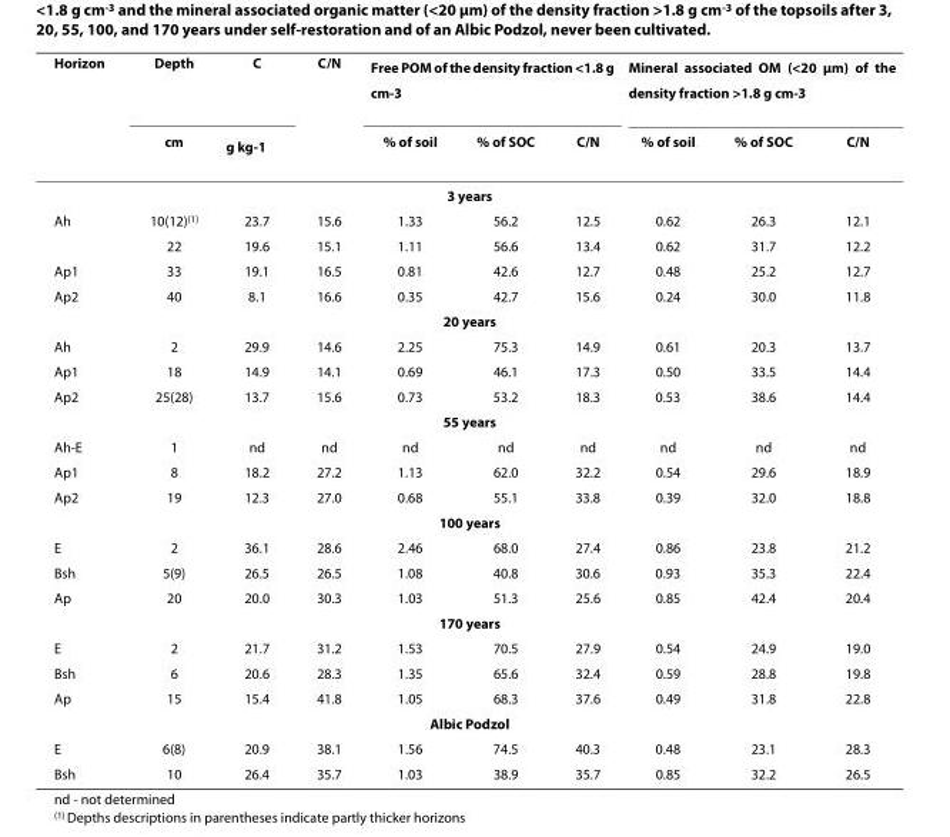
<table><thead><tr><td rowspan="2">Horizon</td><td rowspan="2">Depth cm</td><td rowspan="2">C g kg<sup>-1</sup></td><td rowspan="2">C/N</td><td colspan="3">Free POM of the density fraction &lt;1.8 g cm<sup>-3</sup></td><td colspan="3">Mineral associated OM (&lt;20 μm) of the density fraction &gt;1.8 g cm<sup>-3</sup></td></tr><tr><td>% of soil</td><td>% of SOC</td><td>C/N</td><td>% of soil</td><td>% of SOC</td><td>C/N</td></tr></thead><tbody><tr><td colspan="10">3 years</td></tr><tr><td rowspan="2">Ah</td><td>10(12)<sup>(1)</sup></td><td>23.7</td><td>15.6</td><td>1.33</td><td>56.2</td><td>12.5</td><td>0.62</td><td>26.3</td><td>12.1</td></tr><tr><td>22</td><td>19.6</td><td>15.1</td><td>1.11</td><td>56.6</td><td>13.4</td><td>0.62</td><td>31.7</td><td>12.2</td></tr><tr><td>Ap1</td><td>33</td><td>19.1</td><td>16.5</td><td>0.81</td><td>42.6</td><td>12.7</td><td>0.48</td><td>25.2</td><td>12.7</td></tr><tr><td>Ap2</td><td>40</td><td>8.1</td><td>16.6</td><td>0.35</td><td>42.7</td><td>15.6</td><td>0.24</td><td>30.0</td><td>11.8</td></tr><tr><td colspan="10">20 years</td></tr><tr><td>Ah</td><td>2</td><td>29.9</td><td>14.6</td><td>2.25</td><td>75.3</td><td>14.9</td><td>0.61</td><td>20.3</td><td>13.7</td></tr><tr><td>Ap1</td><td>18</td><td>14.9</td><td>14.1</td><td>0.69</td><td>46.1</td><td>17.3</td><td>0.50</td><td>33.5</td><td>14.4</td></tr><tr><td>Ap2</td><td>25(28)</td><td>13.7</td><td>15.6</td><td>0.73</td><td>53.2</td><td>18.3</td><td>0.53</td><td>38.6</td><td>14.4</td></tr><tr><td colspan="10">55 years</td></tr><tr><td>Ah-E</td><td>1</td><td>nd</td><td>nd</td><td>nd</td><td>nd</td><td>nd</td><td>nd</td><td>nd</td><td>nd</td></tr><tr><td>Ap1</td><td>8</td><td>18.2</td><td>27.2</td><td>1.13</td><td>62.0</td><td>32.2</td><td>0.54</td><td>29.6</td><td>18.9</td></tr><tr><td>Ap2</td><td>19</td><td>12.3</td><td>27.0</td><td>0.68</td><td>55.1</td><td>33.8</td><td>0.39</td><td>32.0</td><td>18.8</td></tr><tr><td colspan="10">100 years</td></tr><tr><td>E</td><td>2</td><td>36.1</td><td>28.6</td><td>2.46</td><td>68.0</td><td>27.4</td><td>0.86</td><td>23.8</td><td>21.2</td></tr><tr><td>Bsh</td><td>5(9)</td><td>26.5</td><td>26.5</td><td>1.08</td><td>40.8</td><td>30.6</td><td>0.93</td><td>35.3</td><td>22.4</td></tr><tr><td>Ap</td><td>20</td><td>20.0</td><td>30.3</td><td>1.03</td><td>51.3</td><td>25.6</td><td>0.85</td><td>42.4</td><td>20.4</td></tr><tr><td colspan="10">170 years</td></tr><tr><td>E</td><td>2</td><td>21.7</td><td>31.2</td><td>1.53</td><td>70.5</td><td>27.9</td><td>0.54</td><td>24.9</td><td>19.0</td></tr><tr><td>Bsh</td><td>6</td><td>20.6</td><td>28.3</td><td>1.35</td><td>65.6</td><td>32.4</td><td>0.59</td><td>28.8</td><td>19.8</td></tr><tr><td>Ap</td><td>15</td><td>15.4</td><td>41.8</td><td>1.05</td><td>68.3</td><td>37.6</td><td>0.49</td><td>31.8</td><td>22.8</td></tr><tr><td colspan="10">Albic Podzol</td></tr><tr><td>E</td><td>6(8)</td><td>20.9</td><td>38.1</td><td>1.56</td><td>74.5</td><td>40.3</td><td>0.48</td><td>23.1</td><td>28.3</td></tr><tr><td>Bsh</td><td>10</td><td>26.4</td><td>35.7</td><td>1.03</td><td>38.9</td><td>35.7</td><td>0.85</td><td>32.2</td><td>26.5</td></tr></tbody></table>